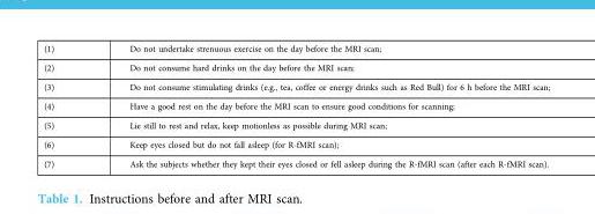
<table><tbody><tr><td>(1)</td><td>Do not undertake strenuous exercise on the day before the MRI scan;</td></tr><tr><td>(2)</td><td>Do not consume hard drinks on the day before the MRI scan;</td></tr><tr><td>(3)</td><td>Do not consume stimulating drinks (e.g., tea, coffee or energy drinks such as Red Bull) for 6 h before the MRI scan;</td></tr><tr><td>(4)</td><td>Have a good rest on the day before the MRI scan to ensure good conditions for scanning;</td></tr><tr><td>(5)</td><td>Lie still to rest and relax, keep motionless as possible during MRI scan;</td></tr><tr><td>(6)</td><td>Keep eyes closed but do not fall asleep (for R-fMRI scan);</td></tr><tr><td>(7)</td><td>Ask the subjects whether they kept their eyes closed or fell asleep during the R-fMRI scan (after each R-fMRI scan).</td></tr></tbody></table>